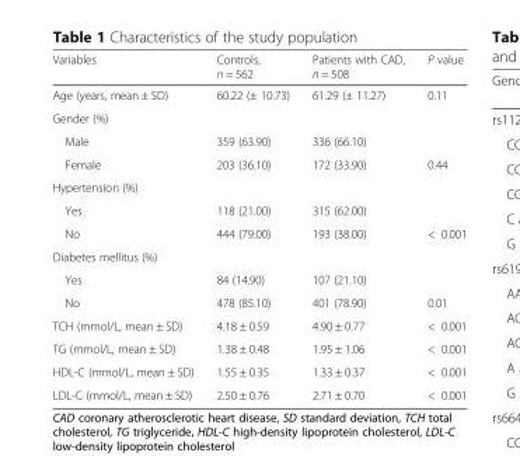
<table><thead><tr><td>Variables</td><td>Controls, n = 562</td><td>Patients with CAD, n = 508</td><td>P value</td></tr></thead><tbody><tr><td>Age (years, mean ± SD)</td><td>60.22 (± 10.73)</td><td>61.29 (± 11.27)</td><td>0.11</td></tr><tr><td colspan="4">Gender (%)</td></tr><tr><td>Male</td><td>359 (63.90)</td><td>336 (66.10)</td><td></td></tr><tr><td>Female</td><td>203 (36.10)</td><td>172 (33.90)</td><td>0.44</td></tr><tr><td colspan="4">Hypertension (%)</td></tr><tr><td>Yes</td><td>118 (21.00)</td><td>315 (62.00)</td><td></td></tr><tr><td>No</td><td>444 (79.00)</td><td>193 (38.00)</td><td>&lt; 0.001</td></tr><tr><td colspan="4">Diabetes mellitus (%)</td></tr><tr><td>Yes</td><td>84 (14.90)</td><td>107 (21.10)</td><td></td></tr><tr><td>No</td><td>478 (85.10)</td><td>401 (78.90)</td><td>0.01</td></tr><tr><td>TCH (mmol/L, mean ± SD)</td><td>4.18 ± 0.59</td><td>4.90 ± 0.77</td><td>&lt; 0.001</td></tr><tr><td>TG (mmol/L, mean ± SD)</td><td>1.38 ± 0.48</td><td>1.95 ± 1.06</td><td>&lt; 0.001</td></tr><tr><td>HDL-C (mmol/L, mean ± SD)</td><td>1.55 ± 0.35</td><td>1.33 ± 0.37</td><td>&lt; 0.001</td></tr><tr><td>LDL-C (mmol/L, mean ± SD)</td><td>2.50 ± 0.76</td><td>2.71 ± 0.70</td><td>&lt; 0.001</td></tr></tbody></table>